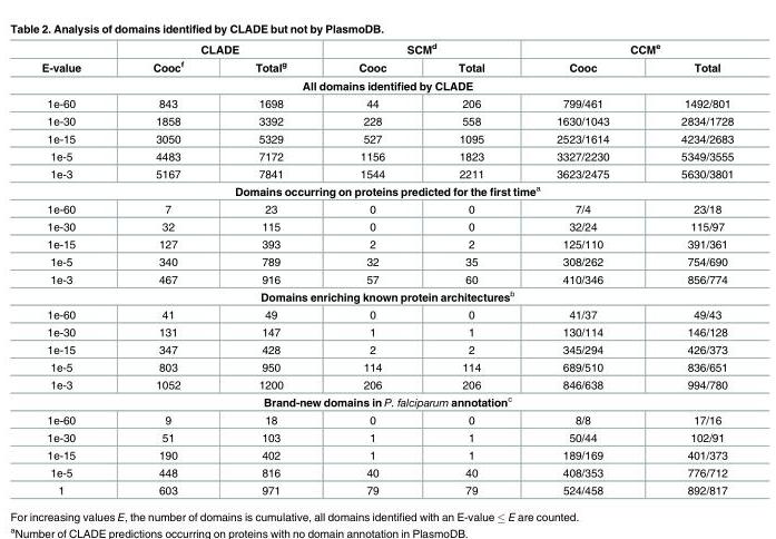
<table><thead><tr><td rowspan="2">E-value</td><td colspan="2">CLADE</td><td colspan="2">SCM<sup>d</sup></td><td colspan="2">CCM<sup>e</sup></td></tr><tr><td>Cooc<sup>f</sup></td><td>Total<sup>g</sup></td><td>Cooc</td><td>Total</td><td>Cooc</td><td>Total</td></tr></thead><tbody><tr><td colspan="7">All domains identified by CLADE</td></tr><tr><td>1e-60</td><td>843</td><td>1698</td><td>44</td><td>206</td><td>799/461</td><td>1492/801</td></tr><tr><td>1e-30</td><td>1858</td><td>3392</td><td>228</td><td>558</td><td>1630/1043</td><td>2834/1728</td></tr><tr><td>1e-15</td><td>3050</td><td>5329</td><td>527</td><td>1095</td><td>2523/1614</td><td>4234/2683</td></tr><tr><td>1e-5</td><td>4483</td><td>7172</td><td>1156</td><td>1823</td><td>3327/2230</td><td>5349/3555</td></tr><tr><td>1e-3</td><td>5167</td><td>7841</td><td>1544</td><td>2211</td><td>3623/2475</td><td>5630/3801</td></tr><tr><td colspan="7">Domains occurring on proteins predicted for the first time<sup>a</sup></td></tr><tr><td>1e-60</td><td>7</td><td>23</td><td>0</td><td>0</td><td>7/4</td><td>23/18</td></tr><tr><td>1e-30</td><td>32</td><td>115</td><td>0</td><td>0</td><td>32/24</td><td>115/97</td></tr><tr><td>1e-15</td><td>127</td><td>393</td><td>2</td><td>2</td><td>125/110</td><td>391/361</td></tr><tr><td>1e-5</td><td>340</td><td>789</td><td>32</td><td>35</td><td>308/262</td><td>754/690</td></tr><tr><td>1e-3</td><td>467</td><td>916</td><td>57</td><td>60</td><td>410/346</td><td>856/774</td></tr><tr><td colspan="7">Domains enriching known protein architectures<sup>b</sup></td></tr><tr><td>1e-60</td><td>41</td><td>49</td><td>0</td><td>0</td><td>41/37</td><td>49/43</td></tr><tr><td>1e-30</td><td>131</td><td>147</td><td>1</td><td>1</td><td>130/114</td><td>146/128</td></tr><tr><td>1e-15</td><td>347</td><td>428</td><td>2</td><td>2</td><td>345/294</td><td>426/373</td></tr><tr><td>1e-5</td><td>803</td><td>950</td><td>114</td><td>114</td><td>689/510</td><td>836/651</td></tr><tr><td>1e-3</td><td>1052</td><td>1200</td><td>206</td><td>206</td><td>846/638</td><td>994/780</td></tr><tr><td colspan="7">Brand-new domains in P. falciparum annotation<sup>c</sup></td></tr><tr><td>1e-60</td><td>9</td><td>18</td><td>0</td><td>0</td><td>8/8</td><td>17/16</td></tr><tr><td>1e-30</td><td>51</td><td>103</td><td>1</td><td>1</td><td>50/44</td><td>102/91</td></tr><tr><td>1e-15</td><td>190</td><td>402</td><td>1</td><td>1</td><td>189/169</td><td>401/373</td></tr><tr><td>1e-5</td><td>448</td><td>816</td><td>40</td><td>40</td><td>408/353</td><td>776/712</td></tr><tr><td>1</td><td>603</td><td>971</td><td>79</td><td>79</td><td>524/458</td><td>892/817</td></tr></tbody></table>